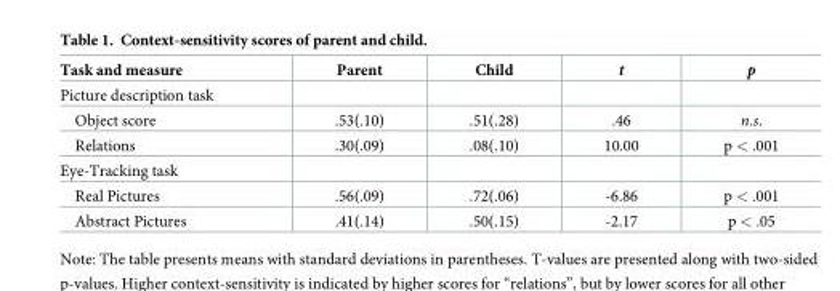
<table><thead><tr><td>Task and measure</td><td>Parent</td><td>Child</td><td>t</td><td>p</td></tr></thead><tbody><tr><td colspan="5">Picture description task</td></tr><tr><td>Object score</td><td>.53(.10)</td><td>.51(.28)</td><td>.46</td><td>n.s.</td></tr><tr><td>Relations</td><td>.30(.09)</td><td>.08(.10)</td><td>10.00</td><td>p &lt; .001</td></tr><tr><td colspan="5">Eye-Tracking task</td></tr><tr><td>Real Pictures</td><td>.56(.09)</td><td>.72(.06)</td><td>-6.86</td><td>p &lt; .001</td></tr><tr><td>Abstract Pictures</td><td>.41(.14)</td><td>.50(.15)</td><td>-2.17</td><td>p &lt; .05</td></tr></tbody></table>